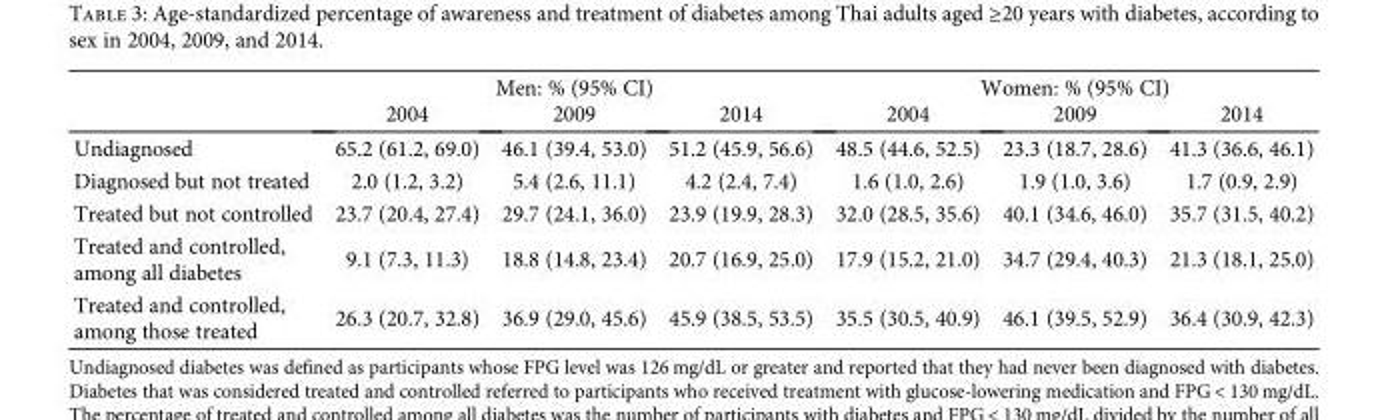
<table><thead><tr><td rowspan="2"></td><td colspan="3">Men: % (95% CI)</td><td colspan="3">Women: % (95% CI)</td></tr><tr><td>2004</td><td>2009</td><td>2014</td><td>2004</td><td>2009</td><td>2014</td></tr></thead><tbody><tr><td>Undiagnosed</td><td>65.2 (61.2, 69.0)</td><td>46.1 (39.4, 53.0)</td><td>51.2 (45.9, 56.6)</td><td>48.5 (44.6, 52.5)</td><td>23.3 (18.7, 28.6)</td><td>41.3 (36.6, 46.1)</td></tr><tr><td>Diagnosed but not treated</td><td>2.0 (1.2, 3.2)</td><td>5.4 (2.6, 11.1)</td><td>4.2 (2.4, 7.4)</td><td>1.6 (1.0, 2.6)</td><td>1.9 (1.0, 3.6)</td><td>1.7 (0.9, 2.9)</td></tr><tr><td>Treated but not controlled</td><td>23.7 (20.4, 27.4)</td><td>29.7 (24.1, 36.0)</td><td>23.9 (19.9, 28.3)</td><td>32.0 (28.5, 35.6)</td><td>40.1 (34.6, 46.0)</td><td>35.7 (31.5, 40.2)</td></tr><tr><td>Treated and controlled, among all diabetes</td><td>9.1 (7.3, 11.3)</td><td>18.8 (14.8, 23.4)</td><td>20.7 (16.9, 25.0)</td><td>17.9 (15.2, 21.0)</td><td>34.7 (29.4, 40.3)</td><td>21.3 (18.1, 25.0)</td></tr><tr><td>Treated and controlled, among those treated</td><td>26.3 (20.7, 32.8)</td><td>36.9 (29.0, 45.6)</td><td>45.9 (38.5, 53.5)</td><td>35.5 (30.5, 40.9)</td><td>46.1 (39.5, 52.9)</td><td>36.4 (30.9, 42.3)</td></tr></tbody></table>